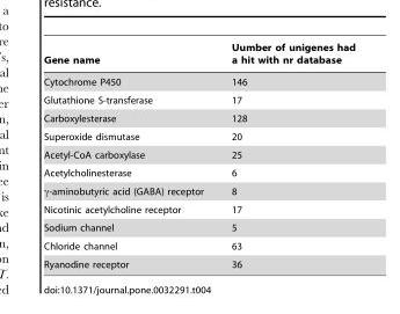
<table><thead><tr><td>Gene name</td><td>Uumber of unigenes had a hit with nr database</td></tr></thead><tbody><tr><td>Cytochrome P450</td><td>146</td></tr><tr><td>Glutathione S-transferase</td><td>17</td></tr><tr><td>Carboxylesterase</td><td>128</td></tr><tr><td>Superoxide dismutase</td><td>20</td></tr><tr><td>Acetyl-CoA carboxylase</td><td>25</td></tr><tr><td>Acetylcholinesterase</td><td>6</td></tr><tr><td>γ-aminobutyric acid (GABA) receptor</td><td>8</td></tr><tr><td>Nicotinic acetylcholine receptor</td><td>17</td></tr><tr><td>Sodium channel</td><td>5</td></tr><tr><td>Chloride channel</td><td>63</td></tr><tr><td>Ryanodine receptor</td><td>36</td></tr></tbody></table>